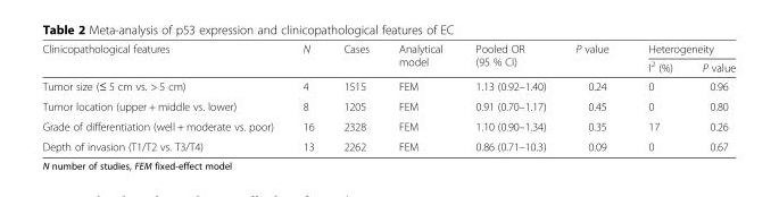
<table><thead><tr><td rowspan="2">Clinicopathological features</td><td rowspan="2">N</td><td rowspan="2">Cases</td><td rowspan="2">Analytical model</td><td rowspan="2">Pooled OR (95 % CI)</td><td rowspan="2">P value</td><td colspan="2">Heterogeneity</td></tr><tr><td>I<sup>2</sup> (%)</td><td>P value</td></tr></thead><tbody><tr><td>Tumor size (≤ 5 cm vs. &gt; 5 cm)</td><td>4</td><td>1515</td><td>FEM</td><td>1.13 (0.92–1.40)</td><td>0.24</td><td>0</td><td>0.96</td></tr><tr><td>Tumor location (upper + middle vs. lower)</td><td>8</td><td>1205</td><td>FEM</td><td>0.91 (0.70–1.17)</td><td>0.45</td><td>0</td><td>0.80</td></tr><tr><td>Grade of differentiation (well + moderate vs. poor)</td><td>16</td><td>2328</td><td>FEM</td><td>1.10 (0.90–1.34)</td><td>0.35</td><td>17</td><td>0.26</td></tr><tr><td>Depth of invasion (T1/T2 vs. T3/T4)</td><td>13</td><td>2262</td><td>FEM</td><td>0.86 (0.71–10.3)</td><td>0.09</td><td>0</td><td>0.67</td></tr></tbody></table>